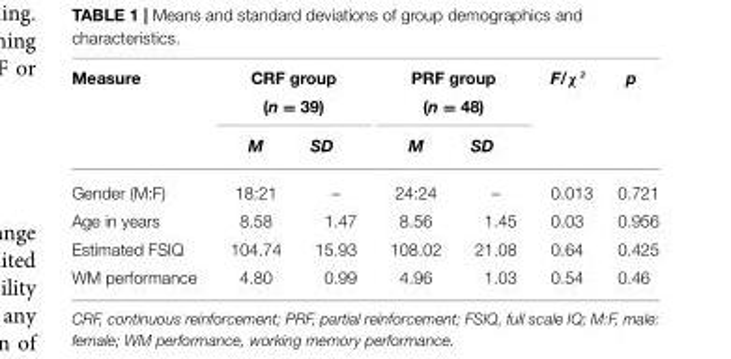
<table><thead><tr><td rowspan="2">Measure</td><td colspan="2">CRF group (n = 39)</td><td colspan="2">PRF group (n = 48)</td><td rowspan="2">F/χ²</td><td rowspan="2">p</td></tr><tr><td>M</td><td>SD</td><td>M</td><td>SD</td></tr></thead><tbody><tr><td>Gender (M:F)</td><td>18:21</td><td>–</td><td>24:24</td><td>–</td><td>0.013</td><td>0.721</td></tr><tr><td>Age in years</td><td>8.58</td><td>1.47</td><td>8.56</td><td>1.45</td><td>0.03</td><td>0.956</td></tr><tr><td>Estimated FSIQ</td><td>104.74</td><td>15.93</td><td>108.02</td><td>21.08</td><td>0.64</td><td>0.425</td></tr><tr><td>WM performance</td><td>4.80</td><td>0.99</td><td>4.96</td><td>1.03</td><td>0.54</td><td>0.46</td></tr></tbody></table>